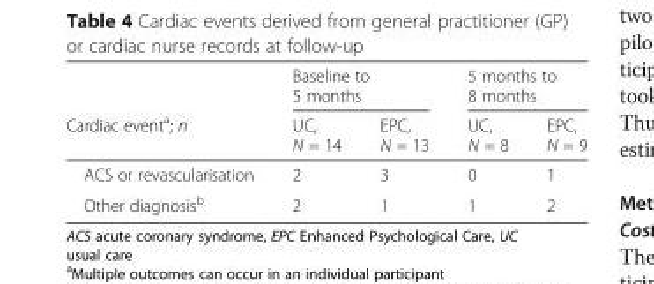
<table><thead><tr><td rowspan="2">Cardiac event<sup>a</sup>; n</td><td colspan="2">Baseline to 5 months</td><td colspan="2">5 months to 8 months</td></tr><tr><td>UC, N = 14</td><td>EPC, N = 13</td><td>UC, N = 8</td><td>EPC, N = 9</td></tr></thead><tbody><tr><td>ACS or revascularisation</td><td>2</td><td>3</td><td>0</td><td>1</td></tr><tr><td>Other diagnosis<sup>b</sup></td><td>2</td><td>1</td><td>1</td><td>2</td></tr></tbody></table>